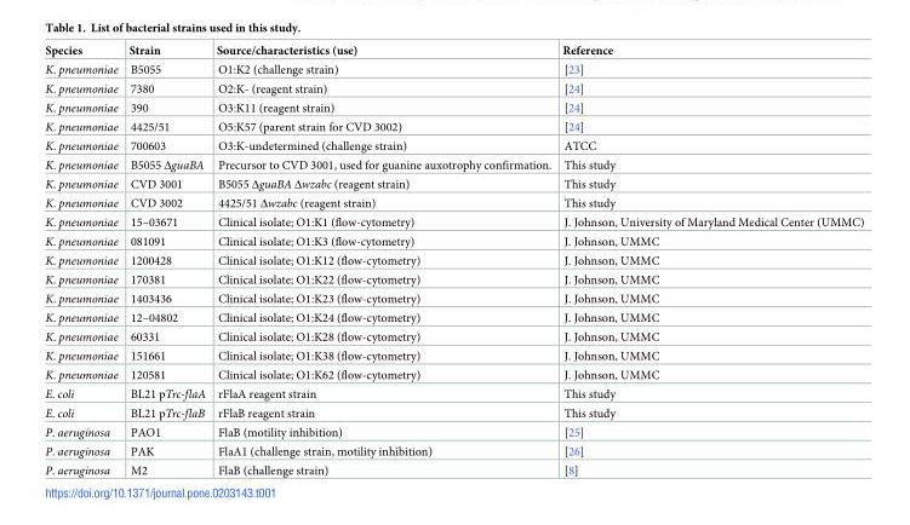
<table><thead><tr><td>Species</td><td>Strain</td><td>Source/characteristics (use)</td><td>Reference</td></tr></thead><tbody><tr><td>K. pneumoniae</td><td>B5055</td><td>O1:K2 (challenge strain)</td><td>[23]</td></tr><tr><td>K. pneumoniae</td><td>7380</td><td>O2:K- (reagent strain)</td><td>[24]</td></tr><tr><td>K. pneumoniae</td><td>390</td><td>O3:K11 (reagent strain)</td><td>[24]</td></tr><tr><td>K. pneumoniae</td><td>4425/51</td><td>O5:K57 (parent strain for CVD 3002)</td><td>[24]</td></tr><tr><td>K. pneumoniae</td><td>700603</td><td>O3:K-undetermined (challenge strain)</td><td>ATCC</td></tr><tr><td>K. pneumoniae</td><td>B5055 ΔguaBA</td><td>Precursor to CVD 3001, used for guanine auxotrophy confirmation.</td><td>This study</td></tr><tr><td>K. pneumoniae</td><td>CVD 3001</td><td>B5055 ΔguaBA Δwzabc (reagent strain)</td><td>This study</td></tr><tr><td>K. pneumoniae</td><td>CVD 3002</td><td>4425/51 Δwzabc (reagent strain)</td><td>This study</td></tr><tr><td>K. pneumoniae</td><td>15–03671</td><td>Clinical isolate; O1:K1 (flow-cytometry)</td><td>J. Johnson, University of Maryland Medical Center (UMMC)</td></tr><tr><td>K. pneumoniae</td><td>081091</td><td>Clinical isolate; O1:K3 (flow-cytometry)</td><td>J. Johnson, UMMC</td></tr><tr><td>K. pneumoniae</td><td>1200428</td><td>Clinical isolate; O1:K12 (flow-cytometry)</td><td>J. Johnson, UMMC</td></tr><tr><td>K. pneumoniae</td><td>170381</td><td>Clinical isolate; O1:K22 (flow-cytometry)</td><td>J. Johnson, UMMC</td></tr><tr><td>K. pneumoniae</td><td>1403436</td><td>Clinical isolate; O1:K23 (flow-cytometry)</td><td>J. Johnson, UMMC</td></tr><tr><td>K. pneumoniae</td><td>12–04802</td><td>Clinical isolate; O1:K24 (flow-cytometry)</td><td>J. Johnson, UMMC</td></tr><tr><td>K. pneumoniae</td><td>60331</td><td>Clinical isolate; O1:K28 (flow-cytometry)</td><td>J. Johnson, UMMC</td></tr><tr><td>K. pneumoniae</td><td>151661</td><td>Clinical isolate; O1:K38 (flow-cytometry)</td><td>J. Johnson, UMMC</td></tr><tr><td>K. pneumoniae</td><td>120581</td><td>Clinical isolate; O1:K62 (flow-cytometry)</td><td>J. Johnson, UMMC</td></tr><tr><td>E. coli</td><td>BL21 pTrc-flaA</td><td>rFlaA reagent strain</td><td>This study</td></tr><tr><td>E. coli</td><td>BL21 pTrc-flaB</td><td>rFlaB reagent strain</td><td>This study</td></tr><tr><td>P. aeruginosa</td><td>PAO1</td><td>FlaB (motility inhibition)</td><td>[25]</td></tr><tr><td>P. aeruginosa</td><td>PAK</td><td>FlaA1 (challenge strain, motility inhibition)</td><td>[26]</td></tr><tr><td>P. aeruginosa</td><td>M2</td><td>FlaB (challenge strain)</td><td>[8]</td></tr></tbody></table>